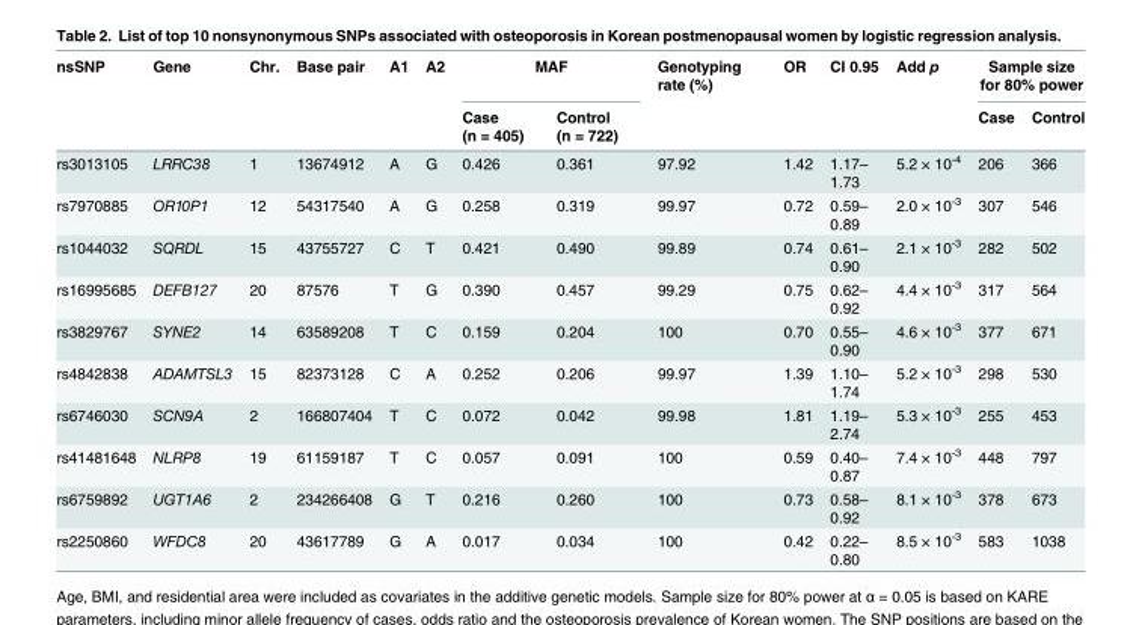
<table><thead><tr><td rowspan="2">nsSNP</td><td rowspan="2">Gene</td><td rowspan="2">Chr.</td><td rowspan="2">Base pair</td><td rowspan="2">A1</td><td rowspan="2">A2</td><td colspan="2">MAF</td><td rowspan="2">Genotyping rate (%)</td><td rowspan="2">OR</td><td rowspan="2">CI 0.95</td><td rowspan="2">Add p</td><td colspan="2">Sample size for 80% power</td></tr><tr><td>Case (n = 405)</td><td>Control (n = 722)</td><td>Case</td><td>Control</td></tr></thead><tbody><tr><td>rs3013105</td><td>LRRC38</td><td>1</td><td>13674912</td><td>A</td><td>G</td><td>0.426</td><td>0.361</td><td>97.92</td><td>1.42</td><td>1.17– 1.73</td><td>5.2 × 10<sup>-4</sup></td><td>206</td><td>366</td></tr><tr><td>rs7970885</td><td>OR10P1</td><td>12</td><td>54317540</td><td>A</td><td>G</td><td>0.258</td><td>0.319</td><td>99.97</td><td>0.72</td><td>0.59– 0.89</td><td>2.0 × 10<sup>-3</sup></td><td>307</td><td>546</td></tr><tr><td>rs1044032</td><td>SQRDL</td><td>15</td><td>43755727</td><td>C</td><td>T</td><td>0.421</td><td>0.490</td><td>99.89</td><td>0.74</td><td>0.61– 0.90</td><td>2.1 × 10<sup>-3</sup></td><td>282</td><td>502</td></tr><tr><td>rs16995685</td><td>DEFB127</td><td>20</td><td>87576</td><td>T</td><td>G</td><td>0.390</td><td>0.457</td><td>99.29</td><td>0.75</td><td>0.62– 0.92</td><td>4.4 × 10<sup>-3</sup></td><td>317</td><td>564</td></tr><tr><td>rs3829767</td><td>SYNE2</td><td>14</td><td>63589208</td><td>T</td><td>C</td><td>0.159</td><td>0.204</td><td>100</td><td>0.70</td><td>0.55– 0.90</td><td>4.6 × 10<sup>-3</sup></td><td>377</td><td>671</td></tr><tr><td>rs4842838</td><td>ADAMTSL3</td><td>15</td><td>82373128</td><td>C</td><td>A</td><td>0.252</td><td>0.206</td><td>99.97</td><td>1.39</td><td>1.10– 1.74</td><td>5.2 × 10<sup>-3</sup></td><td>298</td><td>530</td></tr><tr><td>rs6746030</td><td>SCN9A</td><td>2</td><td>166807404</td><td>T</td><td>C</td><td>0.072</td><td>0.042</td><td>99.98</td><td>1.81</td><td>1.19– 2.74</td><td>5.3 × 10<sup>-3</sup></td><td>255</td><td>453</td></tr><tr><td>rs41481648</td><td>NLRP8</td><td>19</td><td>61159187</td><td>T</td><td>C</td><td>0.057</td><td>0.091</td><td>100</td><td>0.59</td><td>0.40– 0.87</td><td>7.4 × 10<sup>-3</sup></td><td>448</td><td>797</td></tr><tr><td>rs6759892</td><td>UGT1A6</td><td>2</td><td>234266408</td><td>G</td><td>T</td><td>0.216</td><td>0.260</td><td>100</td><td>0.73</td><td>0.58– 0.92</td><td>8.1 × 10<sup>-3</sup></td><td>378</td><td>673</td></tr><tr><td>rs2250860</td><td>WFDC8</td><td>20</td><td>43617789</td><td>G</td><td>A</td><td>0.017</td><td>0.034</td><td>100</td><td>0.42</td><td>0.22– 0.80</td><td>8.5 × 10<sup>-3</sup></td><td>583</td><td>1038</td></tr></tbody></table>